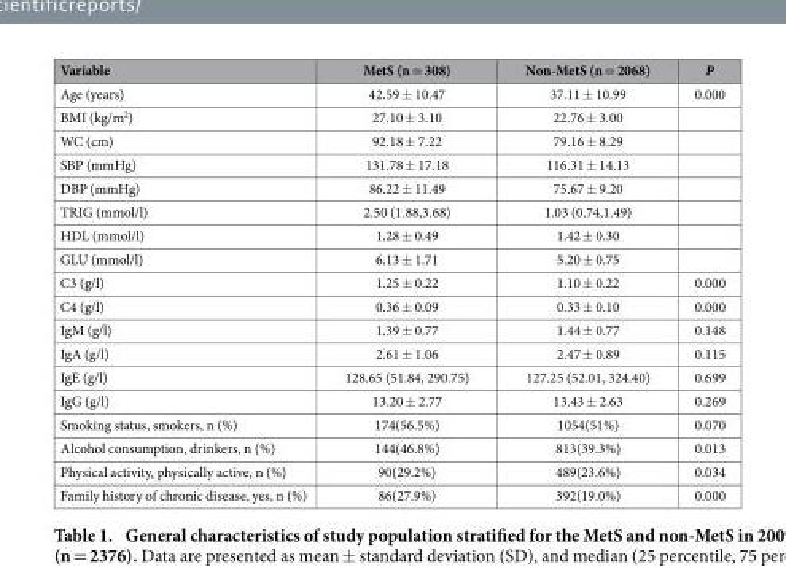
<table><thead><tr><td>Variable</td><td>MetS (n = 308)</td><td>Non-MetS (n = 2068)</td><td>P</td></tr></thead><tbody><tr><td>Age (years)</td><td>42.59 ± 10.47</td><td>37.11 ± 10.99</td><td>0.000</td></tr><tr><td>BMI (kg/m<sup>2</sup>)</td><td>27.10 ± 3.10</td><td>22.76 ± 3.00</td><td></td></tr><tr><td>WC (cm)</td><td>92.18 ± 7.22</td><td>79.16 ± 8.29</td><td></td></tr><tr><td>SBP (mmHg)</td><td>131.78 ± 17.18</td><td>116.31 ± 14.13</td><td></td></tr><tr><td>DBP (mmHg)</td><td>86.22 ± 11.49</td><td>75.67 ± 9.20</td><td></td></tr><tr><td>TRIG (mmol/l)</td><td>2.50 (1.88,3.68)</td><td>1.03 (0.74,1.49)</td><td></td></tr><tr><td>HDL (mmol/l)</td><td>1.28 ± 0.49</td><td>1.42 ± 0.30</td><td></td></tr><tr><td>GLU (mmol/l)</td><td>6.13 ± 1.71</td><td>5.20 ± 0.75</td><td></td></tr><tr><td>C3 (g/l)</td><td>1.25 ± 0.22</td><td>1.10 ± 0.22</td><td>0.000</td></tr><tr><td>C4 (g/l)</td><td>0.36 ± 0.09</td><td>0.33 ± 0.10</td><td>0.000</td></tr><tr><td>IgM (g/l)</td><td>1.39 ± 0.77</td><td>1.44 ± 0.77</td><td>0.148</td></tr><tr><td>IgA (g/l)</td><td>2.61 ± 1.06</td><td>2.47 ± 0.89</td><td>0.115</td></tr><tr><td>IgE (g/l)</td><td>128.65 (51.84, 290.75)</td><td>127.25 (52.01, 324.40)</td><td>0.699</td></tr><tr><td>IgG (g/l)</td><td>13.20 ± 2.77</td><td>13.43 ± 2.63</td><td>0.269</td></tr><tr><td>Smoking status, smokers, n (%)</td><td>174(56.5%)</td><td>1054(51%)</td><td>0.070</td></tr><tr><td>Alcohol consumption, drinkers, n (%)</td><td>144(46.8%)</td><td>813(39.3%)</td><td>0.013</td></tr><tr><td>Physical activity, physically active, n (%)</td><td>90(29.2%)</td><td>489(23.6%)</td><td>0.034</td></tr><tr><td>Family history of chronic disease, yes, n (%)</td><td>86(27.9%)</td><td>392(19.0%)</td><td>0.000</td></tr></tbody></table>